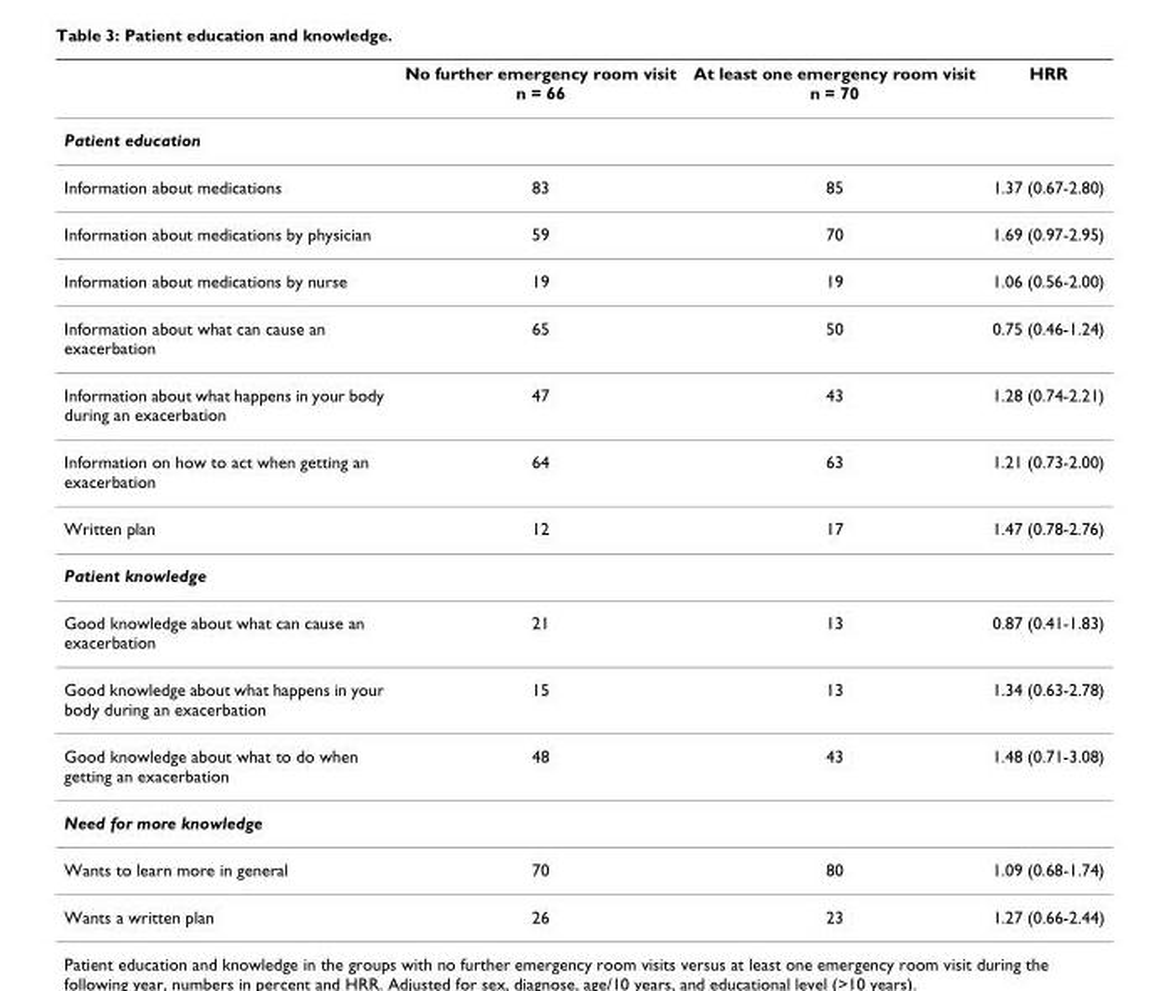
<table><thead><tr><td></td><td>No further emergency room visit n = 66</td><td>At least one emergency room visit n = 70</td><td>HRR</td></tr></thead><tbody><tr><td colspan="4">Patient education</td></tr><tr><td>Information about medications</td><td>83</td><td>85</td><td>1.37 (0.67-2.80)</td></tr><tr><td>Information about medications by physician</td><td>59</td><td>70</td><td>1.69 (0.97-2.95)</td></tr><tr><td>Information about medications by nurse</td><td>19</td><td>19</td><td>1.06 (0.56-2.00)</td></tr><tr><td>Information about what can cause an exacerbation</td><td>65</td><td>50</td><td>0.75 (0.46-1.24)</td></tr><tr><td>Information about what happens in your body during an exacerbation</td><td>47</td><td>43</td><td>1.28 (0.74-2.21)</td></tr><tr><td>Information on how to act when getting an exacerbation</td><td>64</td><td>63</td><td>1.21 (0.73-2.00)</td></tr><tr><td>Written plan</td><td>12</td><td>17</td><td>1.47 (0.78-2.76)</td></tr><tr><td colspan="4">Patient knowledge</td></tr><tr><td>Good knowledge about what can cause an exacerbation</td><td>21</td><td>13</td><td>0.87 (0.41-1.83)</td></tr><tr><td>Good knowledge about what happens in your body during an exacerbation</td><td>15</td><td>13</td><td>1.34 (0.63-2.78)</td></tr><tr><td>Good knowledge about what to do when getting an exacerbation</td><td>48</td><td>43</td><td>1.48 (0.71-3.08)</td></tr><tr><td colspan="4">Need for more knowledge</td></tr><tr><td>Wants to learn more in general</td><td>70</td><td>80</td><td>1.09 (0.68-1.74)</td></tr><tr><td>Wants a written plan</td><td>26</td><td>23</td><td>1.27 (0.66-2.44)</td></tr></tbody></table>